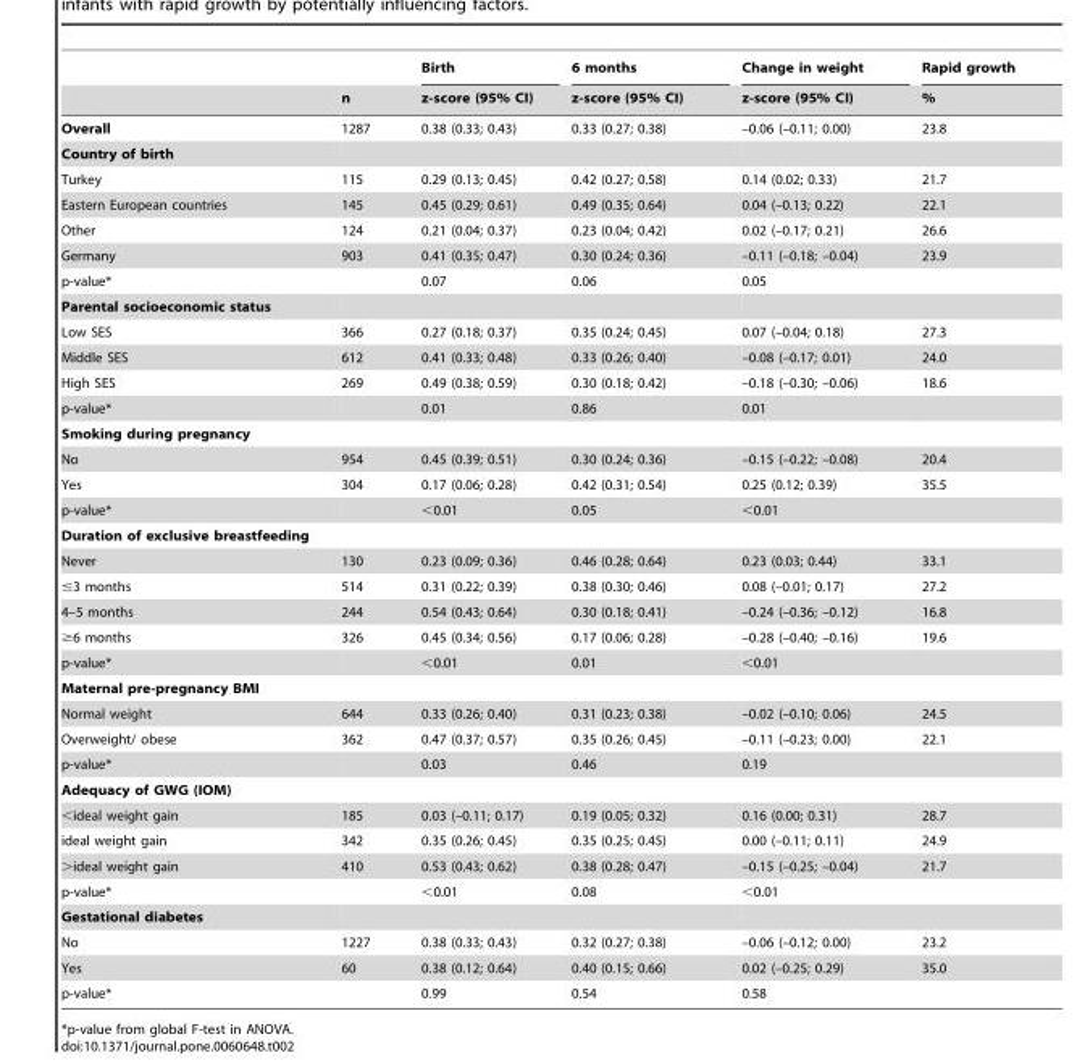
<table><thead><tr><td rowspan="2"></td><td rowspan="2">n</td><td rowspan="2">Birth z-score (95% CI)</td><td rowspan="2">6 months z-score (95% CI)</td><td rowspan="2">Change in weight z-score (95% CI)</td><td rowspan="2">Rapid growth %</td></tr><tr></tr></thead><tbody><tr><td>Overall</td><td>1287</td><td>0.38 (0.33; 0.43)</td><td>0.33 (0.27; 0.38)</td><td>–0.06 (–0.11; 0.00)</td><td>23.8</td></tr><tr><td colspan="6">Country of birth</td></tr><tr><td>Turkey</td><td>115</td><td>0.29 (0.13; 0.45)</td><td>0.42 (0.27; 0.58)</td><td>0.14 (0.02; 0.33)</td><td>21.7</td></tr><tr><td>Eastern European countries</td><td>145</td><td>0.45 (0.29; 0.61)</td><td>0.49 (0.35; 0.64)</td><td>0.04 (–0.13; 0.22)</td><td>22.1</td></tr><tr><td>Other</td><td>124</td><td>0.21 (0.04; 0.37)</td><td>0.23 (0.04; 0.42)</td><td>0.02 (–0.17; 0.21)</td><td>26.6</td></tr><tr><td>Germany</td><td>903</td><td>0.41 (0.35; 0.47)</td><td>0.30 (0.24; 0.36)</td><td>–0.11 (–0.18; –0.04)</td><td>23.9</td></tr><tr><td>p-value*</td><td></td><td>0.07</td><td>0.06</td><td>0.05</td><td></td></tr><tr><td colspan="6">Parental socioeconomic status</td></tr><tr><td>Low SES</td><td>366</td><td>0.27 (0.18; 0.37)</td><td>0.35 (0.24; 0.45)</td><td>0.07 (–0.04; 0.18)</td><td>27.3</td></tr><tr><td>Middle SES</td><td>612</td><td>0.41 (0.33; 0.48)</td><td>0.33 (0.26; 0.40)</td><td>–0.08 (–0.17; 0.01)</td><td>24.0</td></tr><tr><td>High SES</td><td>269</td><td>0.49 (0.38; 0.59)</td><td>0.30 (0.18; 0.42)</td><td>–0.18 (–0.30; –0.06)</td><td>18.6</td></tr><tr><td>p-value*</td><td></td><td>0.01</td><td>0.86</td><td>0.01</td><td></td></tr><tr><td colspan="6">Smoking during pregnancy</td></tr><tr><td>No</td><td>954</td><td>0.45 (0.39; 0.51)</td><td>0.30 (0.24; 0.36)</td><td>–0.15 (–0.22; –0.08)</td><td>20.4</td></tr><tr><td>Yes</td><td>304</td><td>0.17 (0.06; 0.28)</td><td>0.42 (0.31; 0.54)</td><td>0.25 (0.12; 0.39)</td><td>35.5</td></tr><tr><td>p-value*</td><td></td><td>&lt;0.01</td><td>0.05</td><td>&lt;0.01</td><td></td></tr><tr><td colspan="6">Duration of exclusive breastfeeding</td></tr><tr><td>Never</td><td>130</td><td>0.23 (0.09; 0.36)</td><td>0.46 (0.28; 0.64)</td><td>0.23 (0.03; 0.44)</td><td>33.1</td></tr><tr><td>≤3 months</td><td>514</td><td>0.31 (0.22; 0.39)</td><td>0.38 (0.30; 0.46)</td><td>0.08 (–0.01; 0.17)</td><td>27.2</td></tr><tr><td>4–5 months</td><td>244</td><td>0.54 (0.43; 0.64)</td><td>0.30 (0.18; 0.41)</td><td>–0.24 (–0.36; –0.12)</td><td>16.8</td></tr><tr><td>≥6 months</td><td>326</td><td>0.45 (0.34; 0.56)</td><td>0.17 (0.06; 0.28)</td><td>–0.28 (–0.40; –0.16)</td><td>19.6</td></tr><tr><td>p-value*</td><td></td><td>&lt;0.01</td><td>0.01</td><td>&lt;0.01</td><td></td></tr><tr><td colspan="6">Maternal pre-pregnancy BMI</td></tr><tr><td>Normal weight</td><td>644</td><td>0.33 (0.26; 0.40)</td><td>0.31 (0.23; 0.38)</td><td>–0.02 (–0.10; 0.06)</td><td>24.5</td></tr><tr><td>Overweight/ obese</td><td>362</td><td>0.47 (0.37; 0.57)</td><td>0.35 (0.26; 0.45)</td><td>–0.11 (–0.23; 0.00)</td><td>22.1</td></tr><tr><td>p-value*</td><td></td><td>0.03</td><td>0.46</td><td>0.19</td><td></td></tr><tr><td colspan="6">Adequacy of GWG (IOM)</td></tr><tr><td>&lt;ideal weight gain</td><td>185</td><td>0.03 (–0.11; 0.17)</td><td>0.19 (0.05; 0.32)</td><td>0.16 (0.00; 0.31)</td><td>28.7</td></tr><tr><td>ideal weight gain</td><td>342</td><td>0.35 (0.26; 0.45)</td><td>0.35 (0.25; 0.45)</td><td>0.00 (–0.11; 0.11)</td><td>24.9</td></tr><tr><td>&gt;ideal weight gain</td><td>410</td><td>0.53 (0.43; 0.62)</td><td>0.38 (0.28; 0.47)</td><td>–0.15 (–0.25; –0.04)</td><td>21.7</td></tr><tr><td>p-value*</td><td></td><td>&lt;0.01</td><td>0.08</td><td>&lt;0.01</td><td></td></tr><tr><td colspan="6">Gestational diabetes</td></tr><tr><td>No</td><td>1227</td><td>0.38 (0.33; 0.43)</td><td>0.32 (0.27; 0.38)</td><td>–0.06 (–0.12; 0.00)</td><td>23.2</td></tr><tr><td>Yes</td><td>60</td><td>0.38 (0.12; 0.64)</td><td>0.40 (0.15; 0.66)</td><td>0.02 (–0.25; 0.29)</td><td>35.0</td></tr><tr><td>p-value*</td><td></td><td>0.99</td><td>0.54</td><td>0.58</td><td></td></tr></tbody></table>